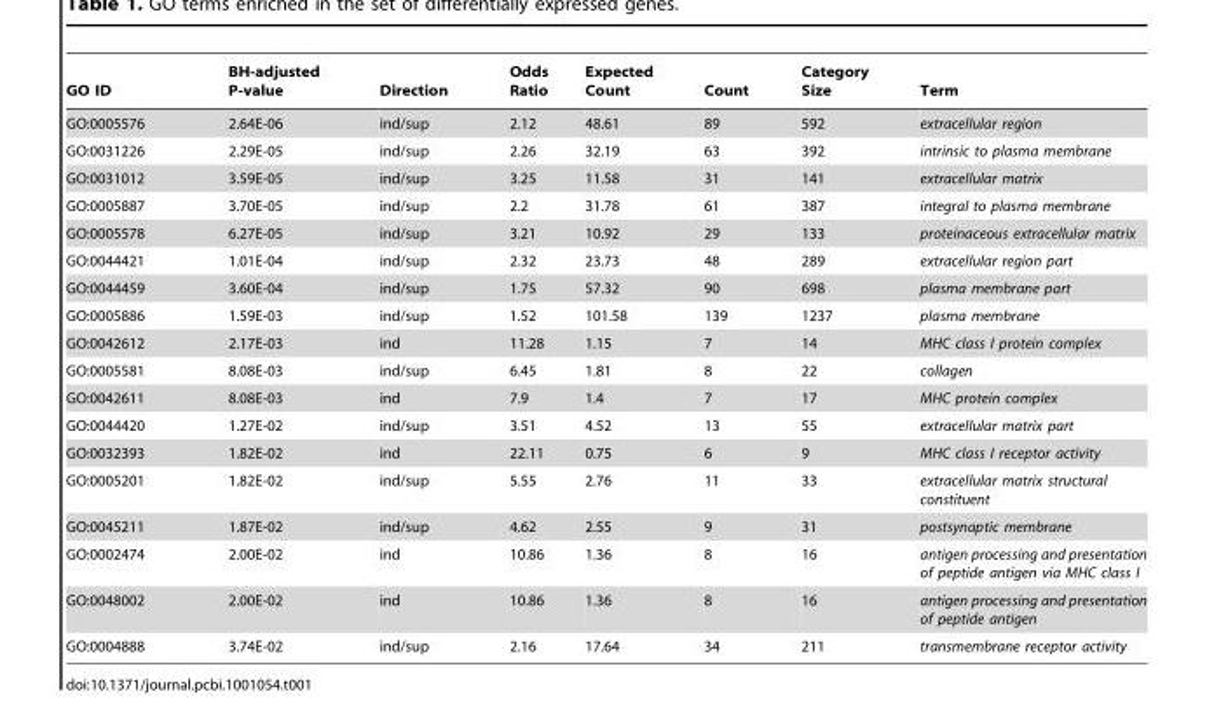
<table><thead><tr><td>GO ID</td><td>BH-adjusted P-value</td><td>Direction</td><td>Odds Ratio</td><td>Expected Count</td><td>Count</td><td>Category Size</td><td>Term</td></tr></thead><tbody><tr><td>GO:0005576</td><td>2.64E-06</td><td>ind/sup</td><td>2.12</td><td>48.61</td><td>89</td><td>592</td><td>extracellular region</td></tr><tr><td>GO:0031226</td><td>2.29E-05</td><td>ind/sup</td><td>2.26</td><td>32.19</td><td>63</td><td>392</td><td>intrinsic to plasma membrane</td></tr><tr><td>GO:0031012</td><td>3.59E-05</td><td>ind/sup</td><td>3.25</td><td>11.58</td><td>31</td><td>141</td><td>extracellular matrix</td></tr><tr><td>GO:0005887</td><td>3.70E-05</td><td>ind/sup</td><td>2.2</td><td>31.78</td><td>61</td><td>387</td><td>integral to plasma membrane</td></tr><tr><td>GO:0005578</td><td>6.27E-05</td><td>ind/sup</td><td>3.21</td><td>10.92</td><td>29</td><td>133</td><td>proteinaceous extracellular matrix</td></tr><tr><td>GO:0044421</td><td>1.01E-04</td><td>ind/sup</td><td>2.32</td><td>23.73</td><td>48</td><td>289</td><td>extracellular region part</td></tr><tr><td>GO:0044459</td><td>3.60E-04</td><td>ind/sup</td><td>1.75</td><td>57.32</td><td>90</td><td>698</td><td>plasma membrane part</td></tr><tr><td>GO:0005886</td><td>1.59E-03</td><td>ind/sup</td><td>1.52</td><td>101.58</td><td>139</td><td>1237</td><td>plasma membrane</td></tr><tr><td>GO:0042612</td><td>2.17E-03</td><td>ind</td><td>11.28</td><td>1.15</td><td>7</td><td>14</td><td>MHC class I protein complex</td></tr><tr><td>GO:0005581</td><td>8.08E-03</td><td>ind/sup</td><td>6.45</td><td>1.81</td><td>8</td><td>22</td><td>collagen</td></tr><tr><td>GO:0042611</td><td>8.08E-03</td><td>ind</td><td>7.9</td><td>1.4</td><td>7</td><td>17</td><td>MHC protein complex</td></tr><tr><td>GO:0044420</td><td>1.27E-02</td><td>ind/sup</td><td>3.51</td><td>4.52</td><td>13</td><td>55</td><td>extracellular matrix part</td></tr><tr><td>GO:0032393</td><td>1.82E-02</td><td>ind</td><td>22.11</td><td>0.75</td><td>6</td><td>9</td><td>MHC class I receptor activity</td></tr><tr><td>GO:0005201</td><td>1.82E-02</td><td>ind/sup</td><td>5.55</td><td>2.76</td><td>11</td><td>33</td><td>extracellular matrix structural constituent</td></tr><tr><td>GO:0045211</td><td>1.87E-02</td><td>ind/sup</td><td>4.62</td><td>2.55</td><td>9</td><td>31</td><td>postsynaptic membrane</td></tr><tr><td>GO:0002474</td><td>2.00E-02</td><td>ind</td><td>10.86</td><td>1.36</td><td>8</td><td>16</td><td>antigen processing and presentation of peptide antigen via MHC class I</td></tr><tr><td>GO:0048002</td><td>2.00E-02</td><td>ind</td><td>10.86</td><td>1.36</td><td>8</td><td>16</td><td>antigen processing and presentation of peptide antigen</td></tr><tr><td>GO:0004888</td><td>3.74E-02</td><td>ind/sup</td><td>2.16</td><td>17.64</td><td>34</td><td>211</td><td>transmembrane receptor activity</td></tr></tbody></table>